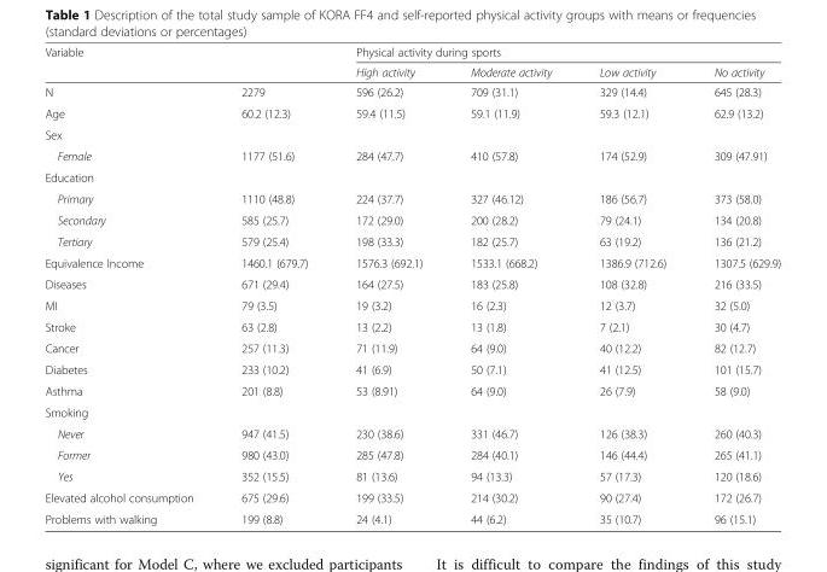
<table><thead><tr><td rowspan="2" colspan="2">Variable</td><td colspan="4">Physical activity during sports</td></tr><tr><td rowspan="2">High activity 596 (26.2)</td><td rowspan="2">Moderate activity 709 (31.1)</td><td rowspan="2">Low activity 329 (14.4)</td><td rowspan="2">No activity 645 (28.3)</td></tr><tr><td>N</td><td>2279</td></tr></thead><tbody><tr><td>Age</td><td>60.2 (12.3)</td><td>59.4 (11.5)</td><td>59.1 (11.9)</td><td>59.3 (12.1)</td><td>62.9 (13.2)</td></tr><tr><td colspan="6">Sex</td></tr><tr><td>Female</td><td>1177 (51.6)</td><td>284 (47.7)</td><td>410 (57.8)</td><td>174 (52.9)</td><td>309 (47.91)</td></tr><tr><td colspan="6">Education</td></tr><tr><td>Primary</td><td>1110 (48.8)</td><td>224 (37.7)</td><td>327 (46.12)</td><td>186 (56.7)</td><td>373 (58.0)</td></tr><tr><td>Secondary</td><td>585 (25.7)</td><td>172 (29.0)</td><td>200 (28.2)</td><td>79 (24.1)</td><td>134 (20.8)</td></tr><tr><td>Tertiary</td><td>579 (25.4)</td><td>198 (33.3)</td><td>182 (25.7)</td><td>63 (19.2)</td><td>136 (21.2)</td></tr><tr><td>Equivalence Income</td><td>1460.1 (679.7)</td><td>1576.3 (692.1)</td><td>1533.1 (668.2)</td><td>1386.9 (712.6)</td><td>1307.5 (629.9)</td></tr><tr><td>Diseases</td><td>671 (29.4)</td><td>164 (27.5)</td><td>183 (25.8)</td><td>108 (32.8)</td><td>216 (33.5)</td></tr><tr><td>MI</td><td>79 (3.5)</td><td>19 (3.2)</td><td>16 (2.3)</td><td>12 (3.7)</td><td>32 (5.0)</td></tr><tr><td>Stroke</td><td>63 (2.8)</td><td>13 (2.2)</td><td>13 (1.8)</td><td>7 (2.1)</td><td>30 (4.7)</td></tr><tr><td>Cancer</td><td>257 (11.3)</td><td>71 (11.9)</td><td>64 (9.0)</td><td>40 (12.2)</td><td>82 (12.7)</td></tr><tr><td>Diabetes</td><td>233 (10.2)</td><td>41 (6.9)</td><td>50 (7.1)</td><td>41 (12.5)</td><td>101 (15.7)</td></tr><tr><td>Asthma</td><td>201 (8.8)</td><td>53 (8.91)</td><td>64 (9.0)</td><td>26 (7.9)</td><td>58 (9.0)</td></tr><tr><td colspan="6">Smoking</td></tr><tr><td>Never</td><td>947 (41.5)</td><td>230 (38.6)</td><td>331 (46.7)</td><td>126 (38.3)</td><td>260 (40.3)</td></tr><tr><td>Former</td><td>980 (43.0)</td><td>285 (47.8)</td><td>284 (40.1)</td><td>146 (44.4)</td><td>265 (41.1)</td></tr><tr><td>Yes</td><td>352 (15.5)</td><td>81 (13.6)</td><td>94 (13.3)</td><td>57 (17.3)</td><td>120 (18.6)</td></tr><tr><td>Elevated alcohol consumption</td><td>675 (29.6)</td><td>199 (33.5)</td><td>214 (30.2)</td><td>90 (27.4)</td><td>172 (26.7)</td></tr><tr><td>Problems with walking</td><td>199 (8.8)</td><td>24 (4.1)</td><td>44 (6.2)</td><td>35 (10.7)</td><td>96 (15.1)</td></tr></tbody></table>